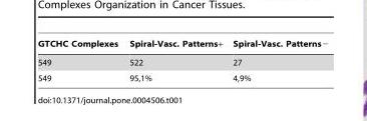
<table><thead><tr><td>GTCHC Complexes</td><td>Spiral-Vasc. Patterns+</td><td>Spiral-Vasc. Patterns−</td></tr></thead><tbody><tr><td>549</td><td>522</td><td>27</td></tr><tr><td>549</td><td>95,1%</td><td>4,9%</td></tr></tbody></table>